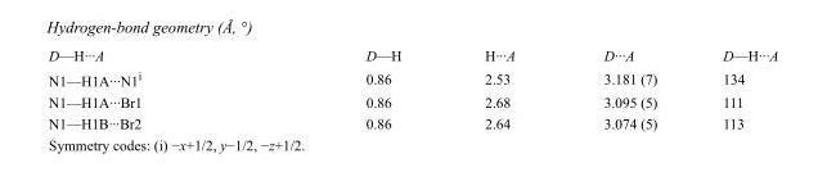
<table><tbody><tr><td>D—H···A</td><td>D—H</td><td>H···A</td><td>D···A</td><td>D—H···A</td></tr><tr><td>N1—H1A···N1<sup>i</sup></td><td>0.86</td><td>2.53</td><td>3.181 (7)</td><td>134</td></tr><tr><td>N1—H1A···Br1</td><td>0.86</td><td>2.68</td><td>3.095 (5)</td><td>111</td></tr><tr><td>N1—H1B···Br2</td><td>0.86</td><td>2.64</td><td>3.074 (5)</td><td>113</td></tr></tbody></table>